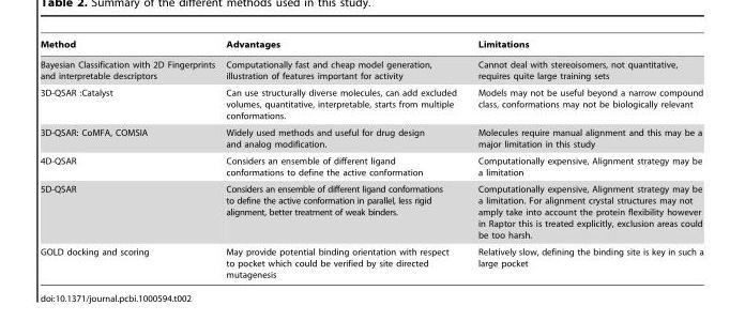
<table><thead><tr><td>Method</td><td>Advantages</td><td>Limitations</td></tr></thead><tbody><tr><td>Bayesian Classification with 2D Fingerprints and interpretable descriptors</td><td>Computationally fast and cheap model generation, illustration of features important for activity</td><td>Cannot deal with stereoisomers, not quantitative, requires quite large training sets</td></tr><tr><td>3D-QSAR :Catalyst</td><td>Can use structurally diverse molecules, can add excluded volumes, quantitative, interpretable, starts from multiple conformations.</td><td>Models may not be useful beyond a narrow compound class, conformations may not be biologically relevant</td></tr><tr><td>3D-QSAR: CoMFA, COMSIA</td><td>Widely used methods and useful for drug design and analog modification.</td><td>Molecules require manual alignment and this may be a major limitation in this study</td></tr><tr><td>4D-QSAR</td><td>Considers an ensemble of different ligand conformations to define the active conformation</td><td>Computationally expensive, Alignment strategy may be a limitation</td></tr><tr><td>5D-QSAR</td><td>Considers an ensemble of different ligand conformations to define the active conformation in parallel, less rigid alignment, better treatment of weak binders.</td><td>Computationally expensive, Alignment strategy may be a limitation. For alignment crystal structures may not amply take into account the protein flexibility however in Raptor this is treated explicitly, exclusion areas could be too harsh.</td></tr><tr><td>GOLD docking and scoring</td><td>May provide potential binding orientation with respect to pocket which could be verified by site directed mutagenesis</td><td>Relatively slow, defining the binding site is key in such a large pocket</td></tr></tbody></table>